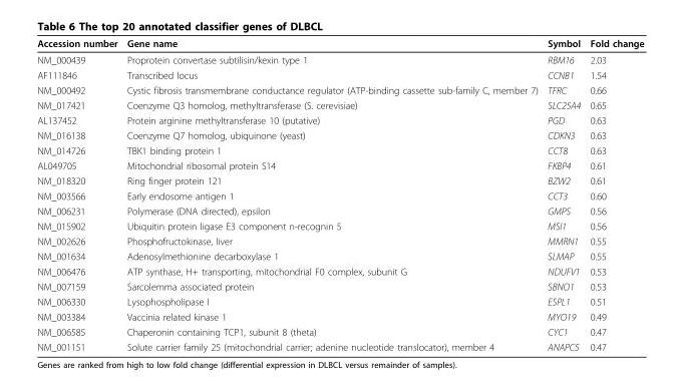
<table><thead><tr><td>Accession number</td><td>Gene name</td><td>Symbol</td><td>Fold change</td></tr></thead><tbody><tr><td>NM_000439</td><td>Proprotein convertase subtilisin/kexin type 1</td><td>RBM16</td><td>2.03</td></tr><tr><td>AF111846</td><td>Transcribed locus</td><td>CCNB1</td><td>1.54</td></tr><tr><td>NM_000492</td><td>Cystic fibrosis transmembrane conductance regulator (ATP-binding cassette sub-family C, member 7)</td><td>TFRC</td><td>0.66</td></tr><tr><td>NM_017421</td><td>Coenzyme Q3 homolog, methyltransferase (S. cerevisiae)</td><td>SLC25A4</td><td>0.65</td></tr><tr><td>AL137452</td><td>Protein arginine methyltransferase 10 (putative)</td><td>PGD</td><td>0.63</td></tr><tr><td>NM_016138</td><td>Coenzyme Q7 homolog, ubiquinone (yeast)</td><td>CDKN3</td><td>0.63</td></tr><tr><td>NM_014726</td><td>TBK1 binding protein 1</td><td>CCT8</td><td>0.63</td></tr><tr><td>AL049705</td><td>Mitochondrial ribosomal protein S14</td><td>FKBP4</td><td>0.61</td></tr><tr><td>NM_018320</td><td>Ring finger protein 121</td><td>BZW2</td><td>0.61</td></tr><tr><td>NM_003566</td><td>Early endosome antigen 1</td><td>CCT3</td><td>0.60</td></tr><tr><td>NM_006231</td><td>Polymerase (DNA directed), epsilon</td><td>GMPS</td><td>0.56</td></tr><tr><td>NM_015902</td><td>Ubiquitin protein ligase E3 component n-recognin 5</td><td>MSI1</td><td>0.56</td></tr><tr><td>NM_002626</td><td>Phosphofructokinase, liver</td><td>MMRN1</td><td>0.55</td></tr><tr><td>NM_001634</td><td>Adenosylmethionine decarboxylase 1</td><td>SLMAP</td><td>0.55</td></tr><tr><td>NM_006476</td><td>ATP synthase, H+ transporting, mitochondrial F0 complex, subunit G</td><td>NDUFV1</td><td>0.53</td></tr><tr><td>NM_007159</td><td>Sarcolemma associated protein</td><td>SBNO1</td><td>0.53</td></tr><tr><td>NM_006330</td><td>Lysophospholipase I</td><td>ESPL1</td><td>0.51</td></tr><tr><td>NM_003384</td><td>Vaccinia related kinase 1</td><td>MYO19</td><td>0.49</td></tr><tr><td>NM_006585</td><td>Chaperonin containing TCP1, subunit 8 (theta)</td><td>CYC1</td><td>0.47</td></tr><tr><td>NM_001151</td><td>Solute carrier family 25 (mitochondrial carrier; adenine nucleotide translocator), member 4</td><td>ANAPC5</td><td>0.47</td></tr></tbody></table>